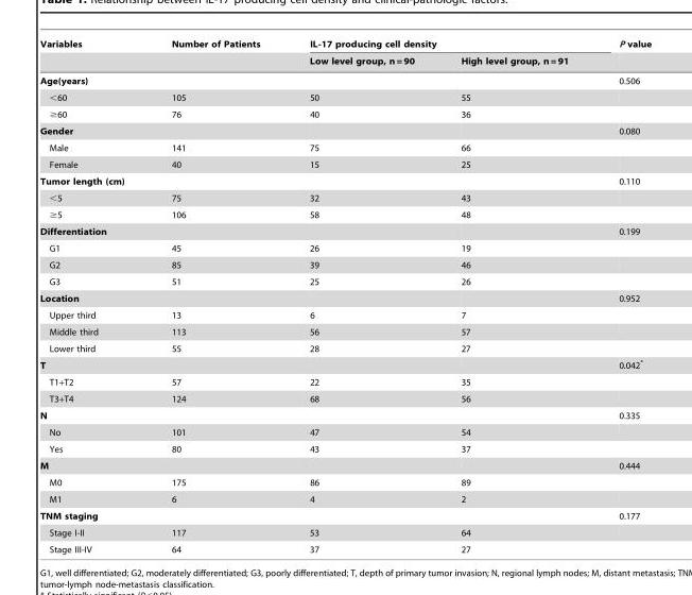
<table><thead><tr><td rowspan="2">Variables</td><td rowspan="2">Number of Patients</td><td colspan="2">IL-17 producing cell density</td><td rowspan="2">P value</td></tr><tr><td>Low level group, n = 90</td><td>High level group, n = 91</td></tr></thead><tbody><tr><td>Age(years)</td><td></td><td></td><td></td><td>0.506</td></tr><tr><td>&lt;60</td><td>105</td><td>50</td><td>55</td><td></td></tr><tr><td>≥60</td><td>76</td><td>40</td><td>36</td><td></td></tr><tr><td>Gender</td><td></td><td></td><td></td><td>0.080</td></tr><tr><td>Male</td><td>141</td><td>75</td><td>66</td><td></td></tr><tr><td>Female</td><td>40</td><td>15</td><td>25</td><td></td></tr><tr><td>Tumor length (cm)</td><td></td><td></td><td></td><td>0.110</td></tr><tr><td>&lt;5</td><td>75</td><td>32</td><td>43</td><td></td></tr><tr><td>≥5</td><td>106</td><td>58</td><td>48</td><td></td></tr><tr><td>Differentiation</td><td></td><td></td><td></td><td>0.199</td></tr><tr><td>G1</td><td>45</td><td>26</td><td>19</td><td></td></tr><tr><td>G2</td><td>85</td><td>39</td><td>46</td><td></td></tr><tr><td>G3</td><td>51</td><td>25</td><td>26</td><td></td></tr><tr><td>Location</td><td></td><td></td><td></td><td>0.952</td></tr><tr><td>Upper third</td><td>13</td><td>6</td><td>7</td><td></td></tr><tr><td>Middle third</td><td>113</td><td>56</td><td>57</td><td></td></tr><tr><td>Lower third</td><td>55</td><td>28</td><td>27</td><td></td></tr><tr><td>T</td><td></td><td></td><td></td><td>0.042*</td></tr><tr><td>T1+T2</td><td>57</td><td>22</td><td>35</td><td></td></tr><tr><td>T3+T4</td><td>124</td><td>68</td><td>56</td><td></td></tr><tr><td>N</td><td></td><td></td><td></td><td>0.335</td></tr><tr><td>No</td><td>101</td><td>47</td><td>54</td><td></td></tr><tr><td>Yes</td><td>80</td><td>43</td><td>37</td><td></td></tr><tr><td>M</td><td></td><td></td><td></td><td>0.444</td></tr><tr><td>M0</td><td>175</td><td>86</td><td>89</td><td></td></tr><tr><td>M1</td><td>6</td><td>4</td><td>2</td><td></td></tr><tr><td>TNM staging</td><td></td><td></td><td></td><td>0.177</td></tr><tr><td>Stage I-II</td><td>117</td><td>53</td><td>64</td><td></td></tr><tr><td>Stage III-IV</td><td>64</td><td>37</td><td>27</td><td></td></tr></tbody></table>